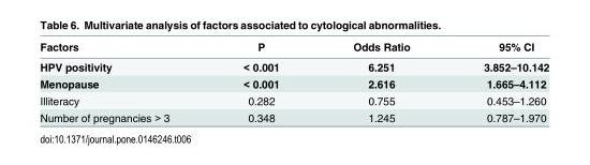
<table><thead><tr><td>Factors</td><td>P</td><td>Odds Ratio</td><td>95% CI</td></tr></thead><tbody><tr><td>HPV positivity</td><td>&lt; 0.001</td><td>6.251</td><td>3.852–10.142</td></tr><tr><td>Menopause</td><td>&lt; 0.001</td><td>2.616</td><td>1.665–4.112</td></tr><tr><td>Illiteracy</td><td>0.282</td><td>0.755</td><td>0.453–1.260</td></tr><tr><td>Number of pregnancies &gt; 3</td><td>0.348</td><td>1.245</td><td>0.787–1.970</td></tr></tbody></table>